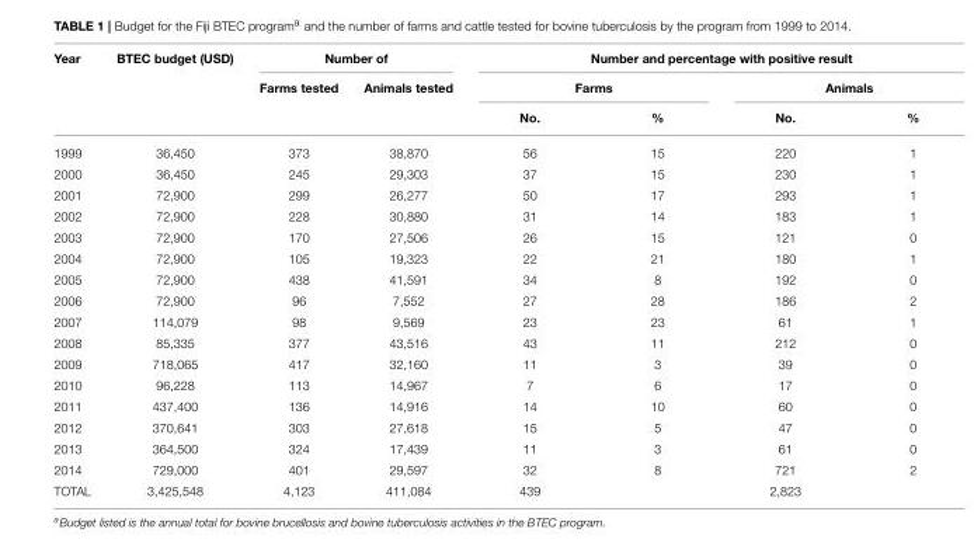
<table><thead><tr><td rowspan="3">Year</td><td rowspan="3">BTEC budget (USD)</td><td colspan="2">Number of</td><td colspan="4">Number and percentage with positive result</td></tr><tr><td rowspan="2">Farms tested</td><td rowspan="2">Animals tested</td><td colspan="2">Farms</td><td colspan="2">Animals</td></tr><tr><td>No.</td><td>%</td><td>No.</td><td>%</td></tr></thead><tbody><tr><td>1999</td><td>36,450</td><td>373</td><td>38,870</td><td>56</td><td>15</td><td>220</td><td>1</td></tr><tr><td>2000</td><td>36,450</td><td>245</td><td>29,303</td><td>37</td><td>15</td><td>230</td><td>1</td></tr><tr><td>2001</td><td>72,900</td><td>299</td><td>26,277</td><td>50</td><td>17</td><td>293</td><td>1</td></tr><tr><td>2002</td><td>72,900</td><td>228</td><td>30,880</td><td>31</td><td>14</td><td>183</td><td>1</td></tr><tr><td>2003</td><td>72,900</td><td>170</td><td>27,506</td><td>26</td><td>15</td><td>121</td><td>0</td></tr><tr><td>2004</td><td>72,900</td><td>105</td><td>19,323</td><td>22</td><td>21</td><td>180</td><td>1</td></tr><tr><td>2005</td><td>72,900</td><td>438</td><td>41,591</td><td>34</td><td>8</td><td>192</td><td>0</td></tr><tr><td>2006</td><td>72,900</td><td>96</td><td>7,552</td><td>27</td><td>28</td><td>186</td><td>2</td></tr><tr><td>2007</td><td>114,079</td><td>98</td><td>9,569</td><td>23</td><td>23</td><td>61</td><td>1</td></tr><tr><td>2008</td><td>85,335</td><td>377</td><td>43,516</td><td>43</td><td>11</td><td>212</td><td>0</td></tr><tr><td>2009</td><td>718,065</td><td>417</td><td>32,160</td><td>11</td><td>3</td><td>39</td><td>0</td></tr><tr><td>2010</td><td>96,228</td><td>113</td><td>14,967</td><td>7</td><td>6</td><td>17</td><td>0</td></tr><tr><td>2011</td><td>437,400</td><td>136</td><td>14,916</td><td>14</td><td>10</td><td>60</td><td>0</td></tr><tr><td>2012</td><td>370,641</td><td>303</td><td>27,618</td><td>15</td><td>5</td><td>47</td><td>0</td></tr><tr><td>2013</td><td>364,500</td><td>324</td><td>17,439</td><td>11</td><td>3</td><td>61</td><td>0</td></tr><tr><td>2014</td><td>729,000</td><td>401</td><td>29,597</td><td>32</td><td>8</td><td>721</td><td>2</td></tr><tr><td>TOTAL</td><td>3,425,548</td><td>4,123</td><td>411,084</td><td>439</td><td></td><td>2,823</td><td></td></tr></tbody></table>